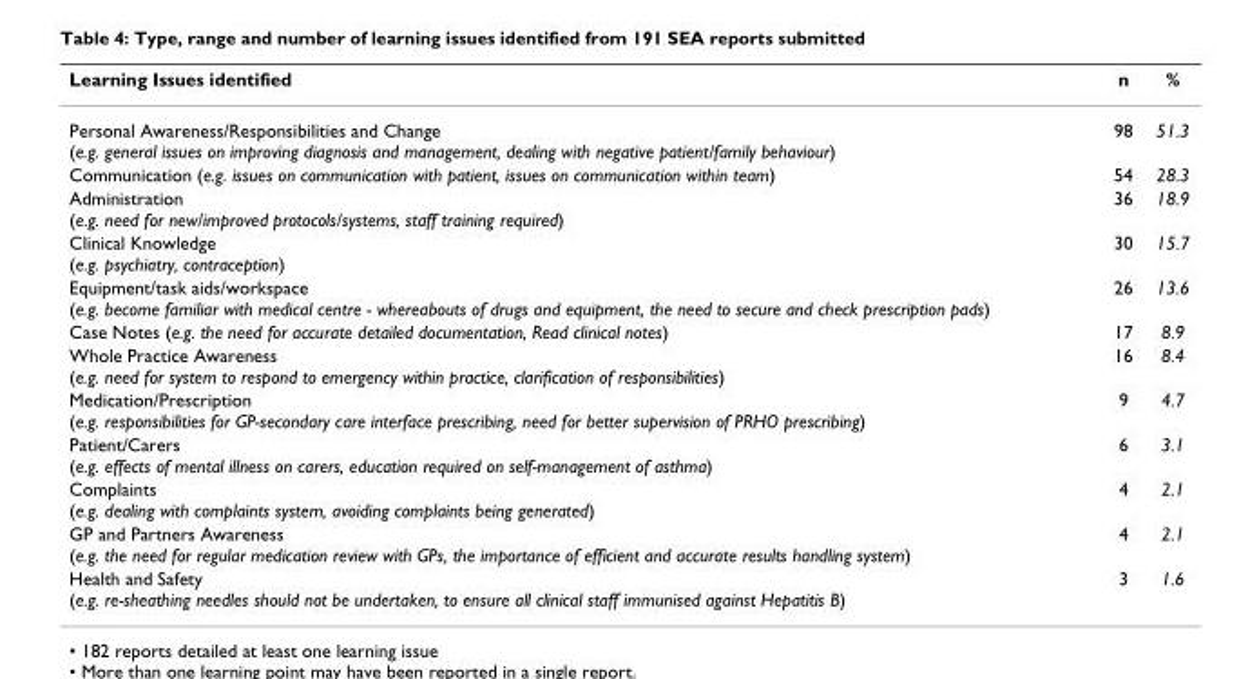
<table><thead><tr><td>Learning Issues identified</td><td>n</td><td>%</td></tr></thead><tbody><tr><td>Personal Awareness/Responsibilities and Change (e.g. general issues on improving diagnosis and management, dealing with negative patient/family behaviour)</td><td>98</td><td>51.3</td></tr><tr><td>Communication (e.g. issues on communication with patient, issues on communication within team)</td><td>54</td><td>28.3</td></tr><tr><td>Administration (e.g. need for new/improved protocols/systems, staff training required)</td><td>36</td><td>18.9</td></tr><tr><td>Clinical Knowledge (e.g. psychiatry, contraception)</td><td>30</td><td>15.7</td></tr><tr><td>Equipment/task aids/workspace (e.g. become familiar with medical centre - whereabouts of drugs and equipment, the need to secure and check prescription pads)</td><td>26</td><td>13.6</td></tr><tr><td>Case Notes (e.g. the need for accurate detailed documentation, Read clinical notes)</td><td>17</td><td>8.9</td></tr><tr><td>Whole Practice Awareness (e.g. need for system to respond to emergency within practice, clarification of responsibilities)</td><td>16</td><td>8.4</td></tr><tr><td>Medication/Prescription (e.g. responsibilities for GP-secondary care interface prescribing, need for better supervision of PRHO prescribing)</td><td>9</td><td>4.7</td></tr><tr><td>Patient/Carers (e.g. effects of mental illness on carers, education required on self-management of asthma)</td><td>6</td><td>3.1</td></tr><tr><td>Complaints (e.g. dealing with complaints system, avoiding complaints being generated)</td><td>4</td><td>2.1</td></tr><tr><td>GP and Partners Awareness (e.g. the need for regular medication review with GPs, the importance of efficient and accurate results handling system)</td><td>4</td><td>2.1</td></tr><tr><td>Health and Safety (e.g. re-sheathing needles should not be undertaken, to ensure all clinical staff immunised against Hepatitis B)</td><td>3</td><td>1.6</td></tr></tbody></table>